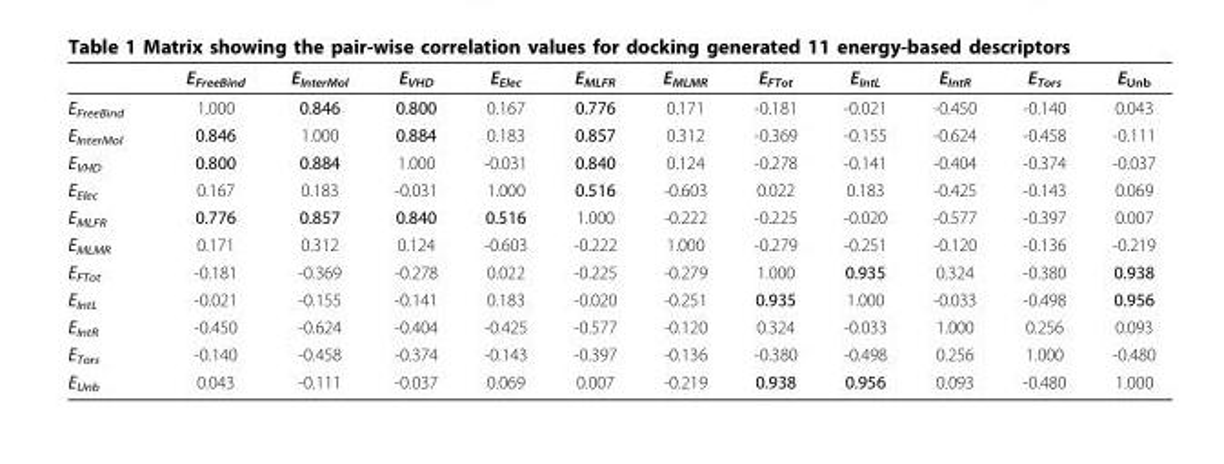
<table><thead><tr><td></td><td>E<sub>FreeBind</sub></td><td>E<sub>InterMol</sub></td><td>E<sub>VHD</sub></td><td>E<sub>Elec</sub></td><td>E<sub>MLFR</sub></td><td>E<sub>MLMR</sub></td><td>E<sub>FTot</sub></td><td>E<sub>IntL</sub></td><td>E<sub>IntR</sub></td><td>E<sub>Tors</sub></td><td>E<sub>Unb</sub></td></tr></thead><tbody><tr><td>E<sub>FreeBind</sub></td><td>1.000</td><td>0.846</td><td>0.800</td><td>0.167</td><td>0.776</td><td>0.171</td><td>-0.181</td><td>-0.021</td><td>-0.450</td><td>-0.140</td><td>0.043</td></tr><tr><td>E<sub>InterMol</sub></td><td>0.846</td><td>1.000</td><td>0.884</td><td>0.183</td><td>0.857</td><td>0.312</td><td>-0.369</td><td>-0.155</td><td>-0.624</td><td>-0.458</td><td>-0.111</td></tr><tr><td>E<sub>VHD</sub></td><td>0.800</td><td>0.884</td><td>1.000</td><td>-0.031</td><td>0.840</td><td>0.124</td><td>-0.278</td><td>-0.141</td><td>-0.404</td><td>-0.374</td><td>-0.037</td></tr><tr><td>E<sub>Elec</sub></td><td>0.167</td><td>0.183</td><td>-0.031</td><td>1.000</td><td>0.516</td><td>-0.603</td><td>0.022</td><td>0.183</td><td>-0.425</td><td>-0.143</td><td>0.069</td></tr><tr><td>E<sub>MLFR</sub></td><td>0.776</td><td>0.857</td><td>0.840</td><td>0.516</td><td>1.000</td><td>-0.222</td><td>-0.225</td><td>-0.020</td><td>-0.577</td><td>-0.397</td><td>0.007</td></tr><tr><td>E<sub>MLMR</sub></td><td>0.171</td><td>0.312</td><td>0.124</td><td>-0.603</td><td>-0.222</td><td>1.000</td><td>-0.279</td><td>-0.251</td><td>-0.120</td><td>-0.136</td><td>-0.219</td></tr><tr><td>E<sub>FTot</sub></td><td>-0.181</td><td>-0.369</td><td>-0.278</td><td>0.022</td><td>-0.225</td><td>-0.279</td><td>1.000</td><td>0.935</td><td>0.324</td><td>-0.380</td><td>0.938</td></tr><tr><td>E<sub>IntL</sub></td><td>-0.021</td><td>-0.155</td><td>-0.141</td><td>0.183</td><td>-0.020</td><td>-0.251</td><td>0.935</td><td>1.000</td><td>-0.033</td><td>-0.498</td><td>0.956</td></tr><tr><td>E<sub>IntR</sub></td><td>-0.450</td><td>-0.624</td><td>-0.404</td><td>-0.425</td><td>-0.577</td><td>-0.120</td><td>0.324</td><td>-0.033</td><td>1.000</td><td>0.256</td><td>0.093</td></tr><tr><td>E<sub>Tors</sub></td><td>-0.140</td><td>-0.458</td><td>-0.374</td><td>-0.143</td><td>-0.397</td><td>-0.136</td><td>-0.380</td><td>-0.498</td><td>0.256</td><td>1.000</td><td>-0.480</td></tr><tr><td>E<sub>Unb</sub></td><td>0.043</td><td>-0.111</td><td>-0.037</td><td>0.069</td><td>0.007</td><td>-0.219</td><td>0.938</td><td>0.956</td><td>0.093</td><td>-0.480</td><td>1.000</td></tr></tbody></table>